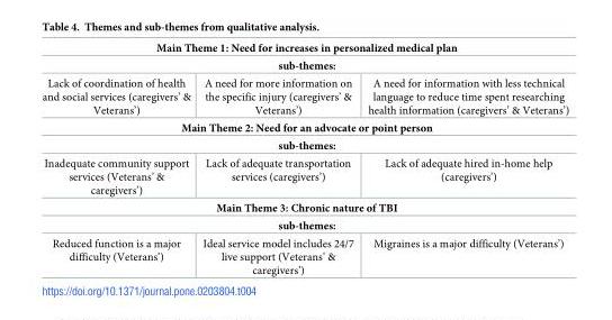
<table><tbody><tr><td colspan="3">Main Theme 1: Need for increases in personalized medical plan</td></tr><tr><td colspan="3">sub-themes:</td></tr><tr><td>Lack of coordination of health and social services (caregivers’ &amp; Veterans’)</td><td>A need for more information on the specific injury (caregivers’ &amp; Veterans’)</td><td>A need for information with less technical language to reduce time spent researching health information (caregivers’ &amp; Veterans’)</td></tr><tr><td colspan="3">Main Theme 2: Need for an advocate or point person</td></tr><tr><td colspan="3">sub-themes:</td></tr><tr><td>Inadequate community support services (Veterans’ &amp; caregivers’)</td><td>Lack of adequate transportation services (caregivers’)</td><td>Lack of adequate hired in-home help (caregivers’)</td></tr><tr><td colspan="3">Main Theme 3: Chronic nature of TBI</td></tr><tr><td colspan="3">sub-themes:</td></tr><tr><td>Reduced function is a major difficulty (Veterans’)</td><td>Ideal service model includes 24/7 live support (Veterans’ &amp; caregivers’)</td><td>Migraines is a major difficulty (Veterans’)</td></tr></tbody></table>